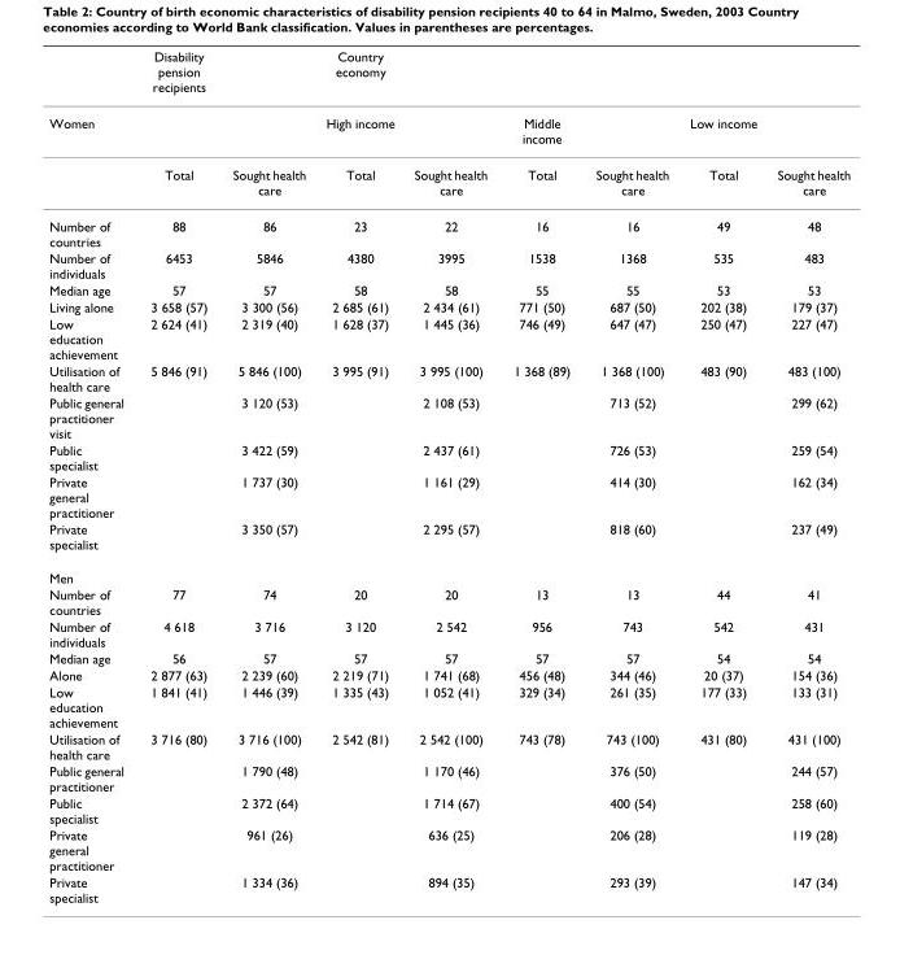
<table><thead><tr><td></td><td>Disability pension recipients</td><td></td><td>Country economy</td><td></td><td></td><td></td><td></td><td></td></tr></thead><tbody><tr><td rowspan="2">Women</td><td></td><td></td><td>High income</td><td></td><td>Middle income</td><td></td><td>Low income</td><td></td></tr><tr><td>Total</td><td>Sought health care</td><td>Total</td><td>Sought health care</td><td>Total</td><td>Sought health care</td><td>Total</td><td>Sought health care</td></tr><tr><td>Number of countries</td><td>88</td><td>86</td><td>23</td><td>22</td><td>16</td><td>16</td><td>49</td><td>48</td></tr><tr><td>Number of individuals</td><td>6453</td><td>5846</td><td>4380</td><td>3995</td><td>1538</td><td>1368</td><td>535</td><td>483</td></tr><tr><td>Median age</td><td>57</td><td>57</td><td>58</td><td>58</td><td>55</td><td>55</td><td>53</td><td>53</td></tr><tr><td>Living alone</td><td>3 658 (57)</td><td>3 300 (56)</td><td>2 685 (61)</td><td>2 434 (61)</td><td>771 (50)</td><td>687 (50)</td><td>202 (38)</td><td>179 (37)</td></tr><tr><td>Low education achievement</td><td>2 624 (41)</td><td>2 319 (40)</td><td>1 628 (37)</td><td>1 445 (36)</td><td>746 (49)</td><td>647 (47)</td><td>250 (47)</td><td>227 (47)</td></tr><tr><td>Utilisation of health care</td><td>5 846 (91)</td><td>5 846 (100)</td><td>3 995 (91)</td><td>3 995 (100)</td><td>1 368 (89)</td><td>1 368 (100)</td><td>483 (90)</td><td>483 (100)</td></tr><tr><td>Public general practitioner visit</td><td></td><td>3 120 (53)</td><td></td><td>2 108 (53)</td><td></td><td>713 (52)</td><td></td><td>299 (62)</td></tr><tr><td>Public specialist</td><td></td><td>3 422 (59)</td><td></td><td>2 437 (61)</td><td></td><td>726 (53)</td><td></td><td>259 (54)</td></tr><tr><td>Private general practitioner</td><td></td><td>1 737 (30)</td><td></td><td>1 161 (29)</td><td></td><td>414 (30)</td><td></td><td>162 (34)</td></tr><tr><td>Private specialist</td><td></td><td>3 350 (57)</td><td></td><td>2 295 (57)</td><td></td><td>818 (60)</td><td></td><td>237 (49)</td></tr><tr><td colspan="9">Men</td></tr><tr><td>Number of countries</td><td>77</td><td>74</td><td>20</td><td>20</td><td>13</td><td>13</td><td>44</td><td>41</td></tr><tr><td>Number of individuals</td><td>4 618</td><td>3 716</td><td>3 120</td><td>2 542</td><td>956</td><td>743</td><td>542</td><td>431</td></tr><tr><td>Median age</td><td>56</td><td>57</td><td>57</td><td>57</td><td>57</td><td>57</td><td>54</td><td>54</td></tr><tr><td>Alone</td><td>2 877 (63)</td><td>2 239 (60)</td><td>2 219 (71)</td><td>1 741 (68)</td><td>456 (48)</td><td>344 (46)</td><td>20 (37)</td><td>154 (36)</td></tr><tr><td>Low education achievement</td><td>1 841 (41)</td><td>1 446 (39)</td><td>1 335 (43)</td><td>1 052 (41)</td><td>329 (34)</td><td>261 (35)</td><td>177 (33)</td><td>133 (31)</td></tr><tr><td>Utilisation of health care</td><td>3 716 (80)</td><td>3 716 (100)</td><td>2 542 (81)</td><td>2 542 (100)</td><td>743 (78)</td><td>743 (100)</td><td>431 (80)</td><td>431 (100)</td></tr><tr><td>Public general practitioner</td><td></td><td>1 790 (48)</td><td></td><td>1 170 (46)</td><td></td><td>376 (50)</td><td></td><td>244 (57)</td></tr><tr><td>Public specialist</td><td></td><td>2 372 (64)</td><td></td><td>1 714 (67)</td><td></td><td>400 (54)</td><td></td><td>258 (60)</td></tr><tr><td>Private general practitioner</td><td></td><td>961 (26)</td><td></td><td>636 (25)</td><td></td><td>206 (28)</td><td></td><td>119 (28)</td></tr><tr><td>Private specialist</td><td></td><td>1 334 (36)</td><td></td><td>894 (35)</td><td></td><td>293 (39)</td><td></td><td>147 (34)</td></tr></tbody></table>